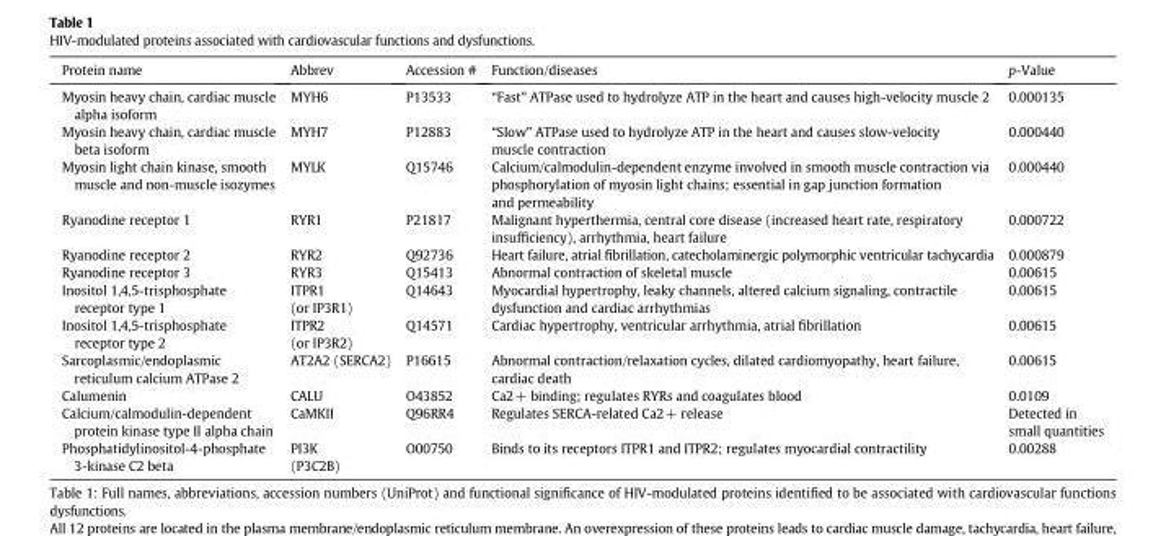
<table><thead><tr><td>Protein name</td><td>Abbrev</td><td>Accession #</td><td>Function/diseases</td><td>p-Value</td></tr></thead><tbody><tr><td>Myosin heavy chain, cardiac muscle alpha isoform</td><td>MYH6</td><td>P13533</td><td>“Fast” ATPase used to hydrolyze ATP in the heart and causes high-velocity muscle 2</td><td>0.000135</td></tr><tr><td>Myosin heavy chain, cardiac muscle beta isoform</td><td>MYH7</td><td>P12883</td><td>“Slow” ATPase used to hydrolyze ATP in the heart and causes slow-velocity muscle contraction</td><td>0.000440</td></tr><tr><td>Myosin light chain kinase, smooth muscle and non-muscle isozymes</td><td>MYLK</td><td>Q15746</td><td>Calcium/calmodulin-dependent enzyme involved in smooth muscle contraction via phosphorylation of myosin light chains; essential in gap junction formation and permeability</td><td>0.000440</td></tr><tr><td>Ryanodine receptor 1</td><td>RYR1</td><td>P21817</td><td>Malignant hyperthermia, central core disease (increased heart rate, respiratory insufficiency), arrhythmia, heart failure</td><td>0.000722</td></tr><tr><td>Ryanodine receptor 2</td><td>RYR2</td><td>Q92736</td><td>Heart failure, atrial fibrillation, catecholaminergic polymorphic ventricular tachycardia</td><td>0.000879</td></tr><tr><td>Ryanodine receptor 3</td><td>RYR3</td><td>Q15413</td><td>Abnormal contraction of skeletal muscle</td><td>0.00615</td></tr><tr><td>Inositol 1,4,5-trisphosphate receptor type 1</td><td>ITPR1 (or IP3R1)</td><td>Q14643</td><td>Myocardial hypertrophy, leaky channels, altered calcium signaling, contractile dysfunction and cardiac arrhythmias</td><td>0.00615</td></tr><tr><td>Inositol 1,4,5-trisphosphate receptor type 2</td><td>ITPR2 (or IP3R2)</td><td>Q14571</td><td>Cardiac hypertrophy, ventricular arrhythmia, atrial fibrillation</td><td>0.00615</td></tr><tr><td>Sarcoplasmic/endoplasmic reticulum calcium ATPase 2</td><td>AT2A2 (SERCA2)</td><td>P16615</td><td>Abnormal contraction/relaxation cycles, dilated cardiomyopathy, heart failure, cardiac death</td><td>0.00615</td></tr><tr><td>Calumenin</td><td>CALU</td><td>O43852</td><td>Ca2+ binding; regulates RYRs and coagulates blood</td><td>0.0109</td></tr><tr><td>Calcium/calmodulin-dependent protein kinase type II alpha chain</td><td>CaMKII</td><td>Q96RR4</td><td>Regulates SERCA-related Ca2+ release</td><td>Detected in small quantities</td></tr><tr><td>Phosphatidylinositol-4-phosphate 3-kinase C2 beta</td><td>PI3K (P3C2B)</td><td>O00750</td><td>Binds to its receptors ITPR1 and ITPR2; regulates myocardial contractility</td><td>0.00288</td></tr></tbody></table>